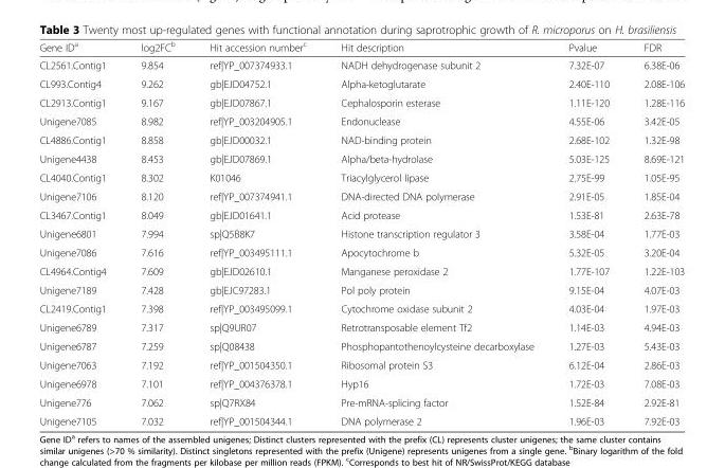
<table><thead><tr><td>Gene ID<sup>a</sup></td><td>log2FC<sup>b</sup></td><td>Hit accession number<sup>c</sup></td><td>Hit description</td><td>Pvalue</td><td>FDR</td></tr></thead><tbody><tr><td>CL2561.Contig1</td><td>9.854</td><td>ref|YP_007374933.1</td><td>NADH dehydrogenase subunit 2</td><td>7.32E-07</td><td>6.38E-06</td></tr><tr><td>CL993.Contig4</td><td>9.262</td><td>gb|EJD04752.1</td><td>Alpha-ketoglutarate</td><td>2.40E-110</td><td>2.08E-106</td></tr><tr><td>CL2913.Contig1</td><td>9.167</td><td>gb|EJD07867.1</td><td>Cephalosporin esterase</td><td>1.11E-120</td><td>1.28E-116</td></tr><tr><td>Unigene7085</td><td>8.982</td><td>ref|YP_003204905.1</td><td>Endonuclease</td><td>4.55E-06</td><td>3.42E-05</td></tr><tr><td>CL4886.Contig1</td><td>8.858</td><td>gb|EJD00032.1</td><td>NAD-binding protein</td><td>2.68E-102</td><td>1.32E-98</td></tr><tr><td>Unigene4438</td><td>8.453</td><td>gb|EJD07869.1</td><td>Alpha/beta-hydrolase</td><td>5.03E-125</td><td>8.69E-121</td></tr><tr><td>CL4040.Contig1</td><td>8.302</td><td>K01046</td><td>Triacylglycerol lipase</td><td>2.75E-99</td><td>1.05E-95</td></tr><tr><td>Unigene7106</td><td>8.120</td><td>ref|YP_007374941.1</td><td>DNA-directed DNA polymerase</td><td>2.91E-05</td><td>1.85E-04</td></tr><tr><td>CL3467.Contig1</td><td>8.049</td><td>gb|EJD01641.1</td><td>Acid protease</td><td>1.53E-81</td><td>2.63E-78</td></tr><tr><td>Unigene6801</td><td>7.994</td><td>sp|Q5B8K7</td><td>Histone transcription regulator 3</td><td>3.58E-04</td><td>1.77E-03</td></tr><tr><td>Unigene7086</td><td>7.616</td><td>ref|YP_003495111.1</td><td>Apocytochrome b</td><td>5.32E-05</td><td>3.20E-04</td></tr><tr><td>CL4964.Contig4</td><td>7.609</td><td>gb|EJD02610.1</td><td>Manganese peroxidase 2</td><td>1.77E-107</td><td>1.22E-103</td></tr><tr><td>Unigene7189</td><td>7.428</td><td>gb|EJC97283.1</td><td>Pol poly protein</td><td>9.15E-04</td><td>4.07E-03</td></tr><tr><td>CL2419.Contig1</td><td>7.398</td><td>ref|YP_003495099.1</td><td>Cytochrome oxidase subunit 2</td><td>4.03E-04</td><td>1.97E-03</td></tr><tr><td>Unigene6789</td><td>7.317</td><td>sp|Q9UR07</td><td>Retrotransposable element Tf2</td><td>1.14E-03</td><td>4.94E-03</td></tr><tr><td>Unigene6787</td><td>7.259</td><td>sp|Q08438</td><td>Phosphopantothenoylcysteine decarboxylase</td><td>1.27E-03</td><td>5.43E-03</td></tr><tr><td>Unigene7063</td><td>7.192</td><td>ref|YP_001504350.1</td><td>Ribosomal protein S3</td><td>6.12E-04</td><td>2.86E-03</td></tr><tr><td>Unigene6978</td><td>7.101</td><td>ref|YP_004376378.1</td><td>Hyp16</td><td>1.72E-03</td><td>7.08E-03</td></tr><tr><td>Unigene776</td><td>7.062</td><td>sp|Q7RX84</td><td>Pre-mRNA-splicing factor</td><td>1.52E-84</td><td>2.92E-81</td></tr><tr><td>Unigene7105</td><td>7.032</td><td>ref|YP_001504344.1</td><td>DNA polymerase 2</td><td>1.96E-03</td><td>7.92E-03</td></tr></tbody></table>